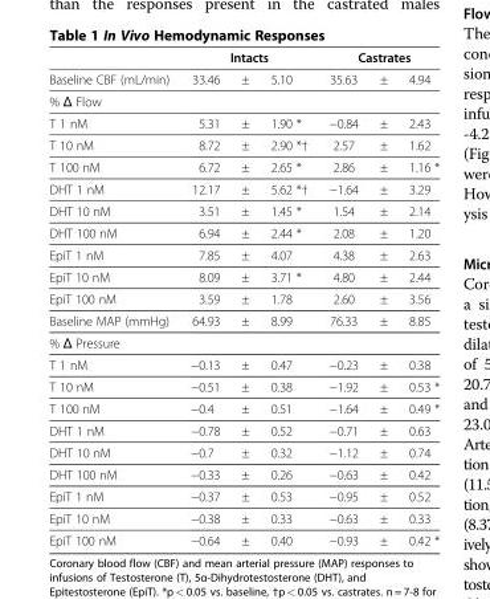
<table><thead><tr><td rowspan="2">Baseline CBF (mL/min)</td><td colspan="3">Intacts</td><td colspan="3">Castrates</td></tr><tr><td>33.46</td><td>±</td><td>5.10</td><td>35.63</td><td>±</td><td>4.94</td></tr></thead><tbody><tr><td colspan="7">% Δ Flow</td></tr><tr><td>T 1 nM</td><td>5.31</td><td>±</td><td>1.90 *</td><td>−0.84</td><td>±</td><td>2.43</td></tr><tr><td>T 10 nM</td><td>8.72</td><td>±</td><td>2.90 *†</td><td>2.57</td><td>±</td><td>1.62</td></tr><tr><td>T 100 nM</td><td>6.72</td><td>±</td><td>2.65 *</td><td>2.86</td><td>±</td><td>1.16 *</td></tr><tr><td>DHT 1 nM</td><td>12.17</td><td>±</td><td>5.62 *†</td><td>−1.64</td><td>±</td><td>3.29</td></tr><tr><td>DHT 10 nM</td><td>3.51</td><td>±</td><td>1.45 *</td><td>1.54</td><td>±</td><td>2.14</td></tr><tr><td>DHT 100 nM</td><td>6.94</td><td>±</td><td>2.44 *</td><td>2.08</td><td>±</td><td>1.20</td></tr><tr><td>EpiT 1 nM</td><td>7.85</td><td>±</td><td>4.07</td><td>4.38</td><td>±</td><td>2.63</td></tr><tr><td>EpiT 10 nM</td><td>8.09</td><td>±</td><td>3.71 *</td><td>4.80</td><td>±</td><td>2.44</td></tr><tr><td>EpiT 100 nM</td><td>3.59</td><td>±</td><td>1.78</td><td>2.60</td><td>±</td><td>3.56</td></tr><tr><td>Baseline MAP (mmHg)</td><td>64.93</td><td>±</td><td>8.99</td><td>76.33</td><td>±</td><td>8.85</td></tr><tr><td colspan="7">% Δ Pressure</td></tr><tr><td>T 1 nM</td><td>−0.13</td><td>±</td><td>0.47</td><td>−0.23</td><td>±</td><td>0.38</td></tr><tr><td>T 10 nM</td><td>−0.51</td><td>±</td><td>0.38</td><td>−1.92</td><td>±</td><td>0.53 *</td></tr><tr><td>T 100 nM</td><td>−0.4</td><td>±</td><td>0.51</td><td>−1.64</td><td>±</td><td>0.49 *</td></tr><tr><td>DHT 1 nM</td><td>−0.78</td><td>±</td><td>0.52</td><td>−0.71</td><td>±</td><td>0.63</td></tr><tr><td>DHT 10 nM</td><td>−0.7</td><td>±</td><td>0.32</td><td>−1.12</td><td>±</td><td>0.74</td></tr><tr><td>DHT 100 nM</td><td>−0.33</td><td>±</td><td>0.26</td><td>−0.63</td><td>±</td><td>0.42</td></tr><tr><td>EpiT 1 nM</td><td>−0.37</td><td>±</td><td>0.53</td><td>−0.95</td><td>±</td><td>0.52</td></tr><tr><td>EpiT 10 nM</td><td>−0.38</td><td>±</td><td>0.33</td><td>−0.63</td><td>±</td><td>0.33</td></tr><tr><td>EpiT 100 nM</td><td>−0.64</td><td>±</td><td>0.40</td><td>−0.93</td><td>±</td><td>0.42 *</td></tr></tbody></table>